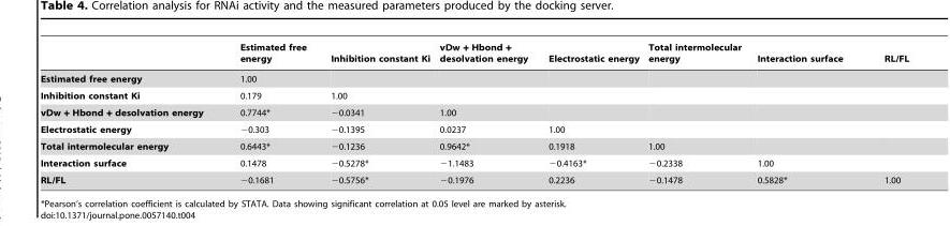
<table><thead><tr><td></td><td>Estimated free energy</td><td>Inhibition constant Ki</td><td>vDw + Hbond + desolvation energy</td><td>Electrostatic energy</td><td>Total intermolecular energy</td><td>Interaction surface</td><td>RL/FL</td></tr></thead><tbody><tr><td>Estimated free energy</td><td>1.00</td><td></td><td></td><td></td><td></td><td></td><td></td></tr><tr><td>Inhibition constant Ki</td><td>0.179</td><td>1.00</td><td></td><td></td><td></td><td></td><td></td></tr><tr><td>vDw + Hbond + desolvation energy</td><td>0.7744*</td><td>−0.0341</td><td>1.00</td><td></td><td></td><td></td><td></td></tr><tr><td>Electrostatic energy</td><td>−0.303</td><td>−0.1395</td><td>0.0237</td><td>1.00</td><td></td><td></td><td></td></tr><tr><td>Total intermolecular energy</td><td>0.6443*</td><td>−0.1236</td><td>0.9642*</td><td>0.1918</td><td>1.00</td><td></td><td></td></tr><tr><td>Interaction surface</td><td>0.1478</td><td>−0.5278*</td><td>−1.1483</td><td>−0.4163*</td><td>−0.2338</td><td>1.00</td><td></td></tr><tr><td>RL/FL</td><td>−0.1681</td><td>−0.5756*</td><td>−0.1976</td><td>0.2236</td><td>−0.1478</td><td>0.5828*</td><td>1.00</td></tr></tbody></table>